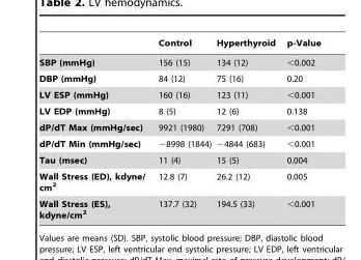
<table><thead><tr><td></td><td>Control</td><td>Hyperthyroid</td><td>p-Value</td></tr></thead><tbody><tr><td>SBP (mmHg)</td><td>156 (15)</td><td>134 (12)</td><td>&lt;0.002</td></tr><tr><td>DBP (mmHg)</td><td>84 (12)</td><td>75 (16)</td><td>0.20</td></tr><tr><td>LV ESP (mmHg)</td><td>160 (16)</td><td>123 (11)</td><td>&lt;0.001</td></tr><tr><td>LV EDP (mmHg)</td><td>8 (5)</td><td>12 (6)</td><td>0.138</td></tr><tr><td>dP/dT Max (mmHg/sec)</td><td>9921 (1980)</td><td>7291 (708)</td><td>&lt;0.001</td></tr><tr><td>dP/dT Min (mmHg/sec)</td><td>−8998 (1844)</td><td>−4844 (683)</td><td>&lt;0.001</td></tr><tr><td>Tau (msec)</td><td>11 (4)</td><td>15 (5)</td><td>0.004</td></tr><tr><td>Wall Stress (ED), kdyne/ cm<sup>2</sup></td><td>12.8 (7)</td><td>26.2 (12)</td><td>0.005</td></tr><tr><td>Wall Stress (ES), kdyne/cm<sup>2</sup></td><td>137.7 (32)</td><td>194.5 (33)</td><td>&lt;0.001</td></tr></tbody></table>